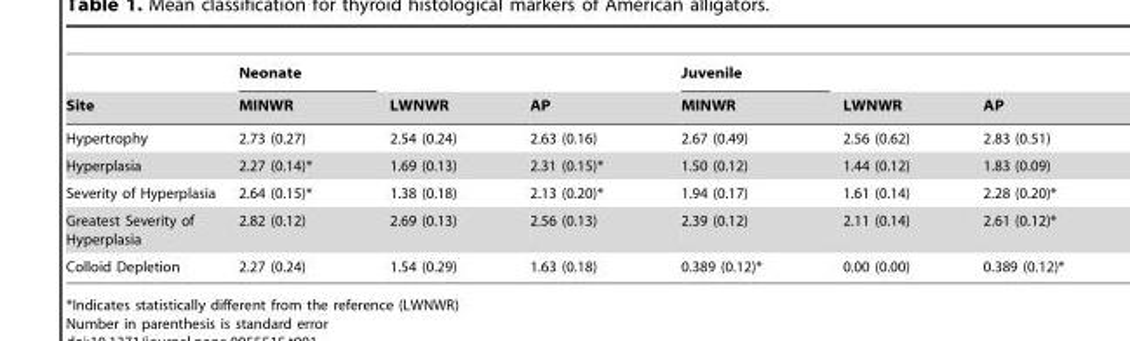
<table><thead><tr><td rowspan="2">Site</td><td rowspan="2">Neonate MINWR</td><td rowspan="2">LWNWR</td><td rowspan="2">AP</td><td rowspan="2">Juvenile MINWR</td><td rowspan="2">LWNWR</td><td rowspan="2">AP</td></tr><tr></tr></thead><tbody><tr><td>Hypertrophy</td><td>2.73 (0.27)</td><td>2.54 (0.24)</td><td>2.63 (0.16)</td><td>2.67 (0.49)</td><td>2.56 (0.62)</td><td>2.83 (0.51)</td></tr><tr><td>Hyperplasia</td><td>2.27 (0.14)*</td><td>1.69 (0.13)</td><td>2.31 (0.15)*</td><td>1.50 (0.12)</td><td>1.44 (0.12)</td><td>1.83 (0.09)</td></tr><tr><td>Severity of Hyperplasia</td><td>2.64 (0.15)*</td><td>1.38 (0.18)</td><td>2.13 (0.20)*</td><td>1.94 (0.17)</td><td>1.61 (0.14)</td><td>2.28 (0.20)*</td></tr><tr><td>Greatest Severity of Hyperplasia</td><td>2.82 (0.12)</td><td>2.69 (0.13)</td><td>2.56 (0.13)</td><td>2.39 (0.12)</td><td>2.11 (0.14)</td><td>2.61 (0.12)*</td></tr><tr><td>Colloid Depletion</td><td>2.27 (0.24)</td><td>1.54 (0.29)</td><td>1.63 (0.18)</td><td>0.389 (0.12)*</td><td>0.00 (0.00)</td><td>0.389 (0.12)*</td></tr></tbody></table>